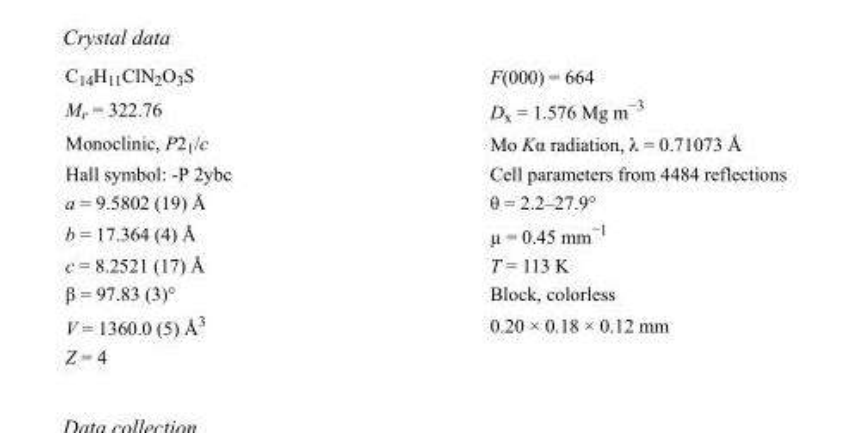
<table><tbody><tr><td>C<sub>14</sub>H<sub>11</sub>ClN<sub>2</sub>O<sub>3</sub>S</td><td>F(000) = 664</td></tr><tr><td>M<sub>r</sub> = 322.76</td><td>D<sub>x</sub> = 1.576 Mg m<sup>−3</sup></td></tr><tr><td>Monoclinic, P2<sub>1</sub>/c</td><td>Mo Kα radiation, λ = 0.71073 Å</td></tr><tr><td>Hall symbol: -P 2ybc</td><td>Cell parameters from 4484 reflections</td></tr><tr><td>a = 9.5802 (19) Å</td><td>θ = 2.2–27.9°</td></tr><tr><td>b = 17.364 (4) Å</td><td>µ = 0.45 mm<sup>−1</sup></td></tr><tr><td>c = 8.2521 (17) Å</td><td>T = 113 K</td></tr><tr><td>β = 97.83 (3)°</td><td>Block, colorless</td></tr><tr><td>V = 1360.0 (5) Å<sup>3</sup></td><td>0.20 × 0.18 × 0.12 mm</td></tr><tr><td>Z = 4</td><td></td></tr></tbody></table>